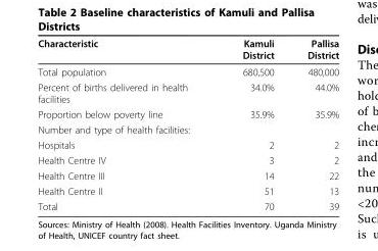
<table><thead><tr><td>Characteristic</td><td>Kamuli District</td><td>Pallisa District</td></tr></thead><tbody><tr><td>Total population</td><td>680,500</td><td>480,000</td></tr><tr><td>Percent of births delivered in health facilities</td><td>34.0%</td><td>44.0%</td></tr><tr><td>Proportion below poverty line</td><td>35.9%</td><td>35.9%</td></tr><tr><td colspan="3">Number and type of health facilities:</td></tr><tr><td>Hospitals</td><td>2</td><td>2</td></tr><tr><td>Health Centre IV</td><td>3</td><td>2</td></tr><tr><td>Health Centre III</td><td>14</td><td>22</td></tr><tr><td>Health Centre II</td><td>51</td><td>13</td></tr><tr><td>Total</td><td>70</td><td>39</td></tr></tbody></table>